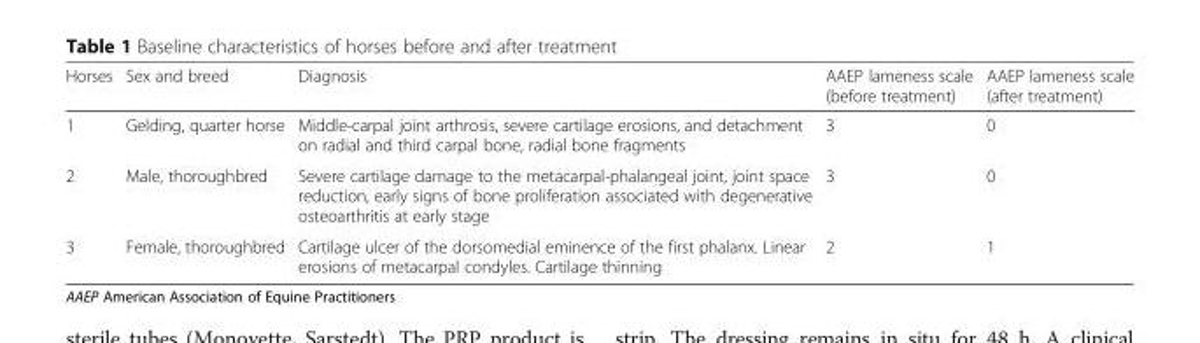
<table><thead><tr><td>Horses</td><td>Sex and breed</td><td>Diagnosis</td><td>AAEP lameness scale (before treatment)</td><td>AAEP lameness scale (after treatment)</td></tr></thead><tbody><tr><td>1</td><td>Gelding, quarter horse</td><td>Middle-carpal joint arthrosis, severe cartilage erosions, and detachment on radial and third carpal bone, radial bone fragments</td><td>3</td><td>0</td></tr><tr><td>2</td><td>Male, thoroughbred</td><td>Severe cartilage damage to the metacarpal-phalangeal joint, joint space reduction, early signs of bone proliferation associated with degenerative osteoarthritis at early stage</td><td>3</td><td>0</td></tr><tr><td>3</td><td>Female, thoroughbred</td><td>Cartilage ulcer of the dorsomedial eminence of the first phalanx. Linear erosions of metacarpal condyles. Cartilage thinning</td><td>2</td><td>1</td></tr></tbody></table>